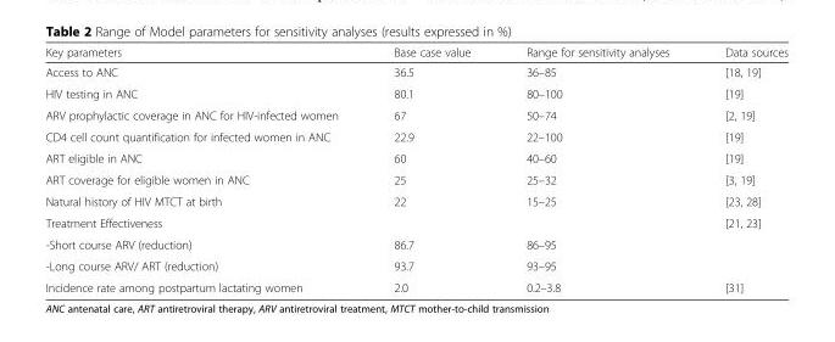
<table><thead><tr><td>Key parameters</td><td>Base case value</td><td>Range for sensitivity analyses</td><td>Data sources</td></tr></thead><tbody><tr><td>Access to ANC</td><td>36.5</td><td>36–85</td><td>[18, 19]</td></tr><tr><td>HIV testing in ANC</td><td>80.1</td><td>80–100</td><td>[19]</td></tr><tr><td>ARV prophylactic coverage in ANC for HIV-infected women</td><td>67</td><td>50–74</td><td>[2, 19]</td></tr><tr><td>CD4 cell count quantification for infected women in ANC</td><td>22.9</td><td>22–100</td><td>[19]</td></tr><tr><td>ART eligible in ANC</td><td>60</td><td>40–60</td><td>[19]</td></tr><tr><td>ART coverage for eligible women in ANC</td><td>25</td><td>25–32</td><td>[3, 19]</td></tr><tr><td>Natural history of HIV MTCT at birth</td><td>22</td><td>15–25</td><td>[23, 28]</td></tr><tr><td>Treatment Effectiveness</td><td></td><td></td><td>[21, 23]</td></tr><tr><td>-Short course ARV (reduction)</td><td>86.7</td><td>86–95</td><td></td></tr><tr><td>-Long course ARV/ ART (reduction)</td><td>93.7</td><td>93–95</td><td></td></tr><tr><td>Incidence rate among postpartum lactating women</td><td>2.0</td><td>0.2–3.8</td><td>[31]</td></tr></tbody></table>